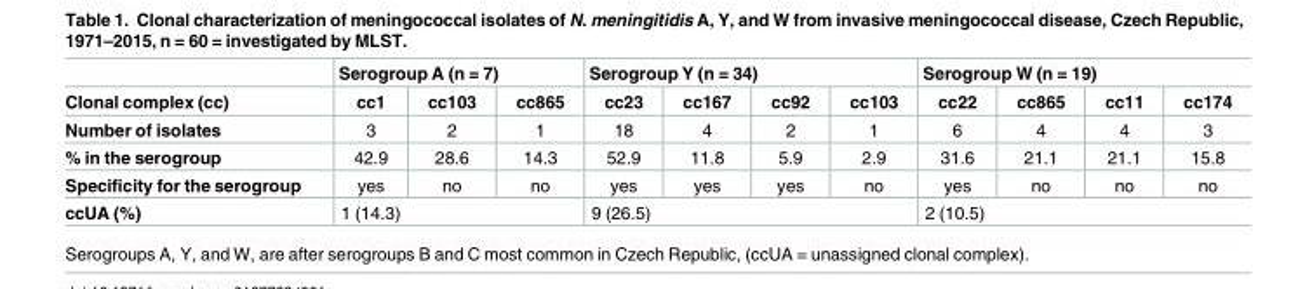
<table><thead><tr><td rowspan="2">Clonal complex (cc)</td><td colspan="3">Serogroup A (n = 7)</td><td colspan="4">Serogroup Y (n = 34)</td><td colspan="4">Serogroup W (n = 19)</td></tr><tr><td>cc1</td><td>cc103</td><td>cc865</td><td>cc23</td><td>cc167</td><td>cc92</td><td>cc103</td><td>cc22</td><td>cc865</td><td>cc11</td><td>cc174</td></tr></thead><tbody><tr><td>Number of isolates</td><td>3</td><td>2</td><td>1</td><td>18</td><td>4</td><td>2</td><td>1</td><td>6</td><td>4</td><td>4</td><td>3</td></tr><tr><td>% in the serogroup</td><td>42.9</td><td>28.6</td><td>14.3</td><td>52.9</td><td>11.8</td><td>5.9</td><td>2.9</td><td>31.6</td><td>21.1</td><td>21.1</td><td>15.8</td></tr><tr><td>Specificity for the serogroup</td><td>yes</td><td>no</td><td>no</td><td>yes</td><td>yes</td><td>yes</td><td>no</td><td>yes</td><td>no</td><td>no</td><td>no</td></tr><tr><td>ccUA (%)</td><td colspan="3">1 (14.3)</td><td colspan="4">9 (26.5)</td><td colspan="4">2 (10.5)</td></tr></tbody></table>